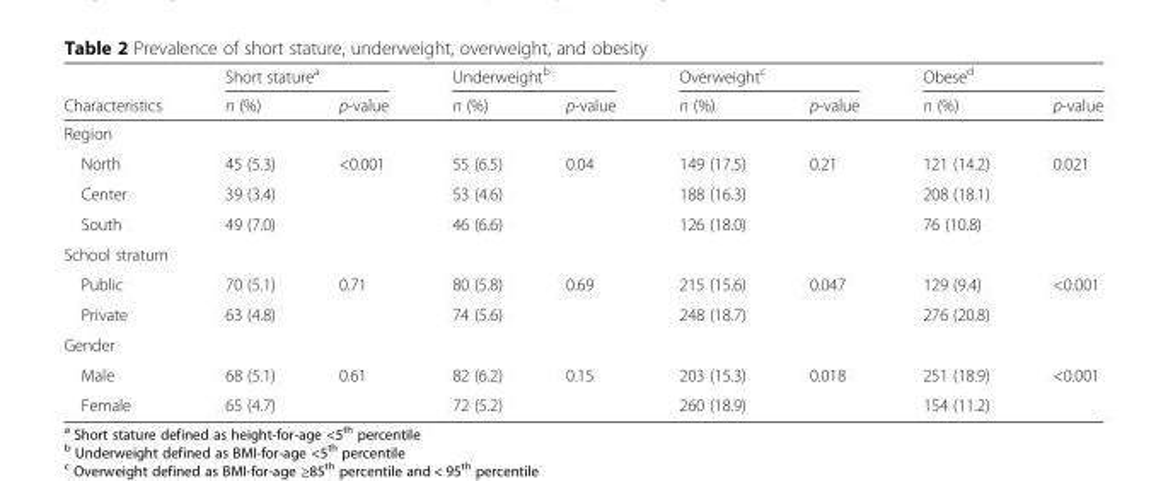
<table><thead><tr><td rowspan="2">Characteristics</td><td colspan="2">Short stature<sup>a</sup></td><td colspan="2">Underweight<sup>b</sup></td><td colspan="2">Overweight<sup>c</sup></td><td colspan="2">Obese<sup>d</sup></td></tr><tr><td>n (%)</td><td>p-value</td><td>n (%)</td><td>p-value</td><td>n (%)</td><td>p-value</td><td>n (%)</td><td>p-value</td></tr></thead><tbody><tr><td colspan="9">Region</td></tr><tr><td>North</td><td>45 (5.3)</td><td rowspan="3">&lt;0.001</td><td>55 (6.5)</td><td rowspan="3">0.04</td><td>149 (17.5)</td><td rowspan="3">0.21</td><td>121 (14.2)</td><td rowspan="3">0.021</td></tr><tr><td>Center</td><td>39 (3.4)</td><td>53 (4.6)</td><td>188 (16.3)</td><td>208 (18.1)</td></tr><tr><td>South</td><td>49 (7.0)</td><td>46 (6.6)</td><td>126 (18.0)</td><td>76 (10.8)</td></tr><tr><td colspan="9">School stratum</td></tr><tr><td>Public</td><td>70 (5.1)</td><td rowspan="2">0.71</td><td>80 (5.8)</td><td rowspan="2">0.69</td><td>215 (15.6)</td><td rowspan="2">0.047</td><td>129 (9.4)</td><td rowspan="2">&lt;0.001</td></tr><tr><td>Private</td><td>63 (4.8)</td><td>74 (5.6)</td><td>248 (18.7)</td><td>276 (20.8)</td></tr><tr><td colspan="9">Gender</td></tr><tr><td>Male</td><td>68 (5.1)</td><td rowspan="2">0.61</td><td>82 (6.2)</td><td rowspan="2">0.15</td><td>203 (15.3)</td><td rowspan="2">0.018</td><td>251 (18.9)</td><td rowspan="2">&lt;0.001</td></tr><tr><td>Female</td><td>65 (4.7)</td><td>72 (5.2)</td><td>260 (18.9)</td><td>154 (11.2)</td></tr></tbody></table>